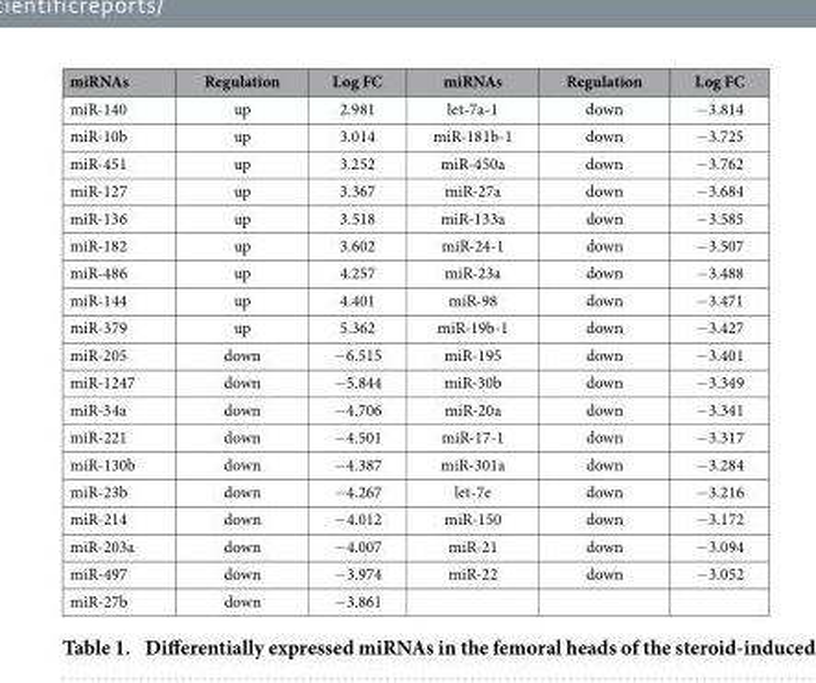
<table><thead><tr><td>miRNAs</td><td>Regulation</td><td>Log FC</td><td>miRNAs</td><td>Regulation</td><td>Log FC</td></tr></thead><tbody><tr><td>miR-140</td><td>up</td><td>2.981</td><td>let-7a-1</td><td>down</td><td>− 3.814</td></tr><tr><td>miR-10b</td><td>up</td><td>3.014</td><td>miR-181b-1</td><td>down</td><td>− 3.725</td></tr><tr><td>miR-451</td><td>up</td><td>3.252</td><td>miR-450a</td><td>down</td><td>− 3.762</td></tr><tr><td>miR-127</td><td>up</td><td>3.367</td><td>miR-27a</td><td>down</td><td>− 3.684</td></tr><tr><td>miR-136</td><td>up</td><td>3.518</td><td>miR-133a</td><td>down</td><td>− 3.585</td></tr><tr><td>miR-182</td><td>up</td><td>3.602</td><td>miR-24-1</td><td>down</td><td>− 3.507</td></tr><tr><td>miR-486</td><td>up</td><td>4.257</td><td>miR-23a</td><td>down</td><td>− 3.488</td></tr><tr><td>miR-144</td><td>up</td><td>4.401</td><td>miR-98</td><td>down</td><td>− 3.471</td></tr><tr><td>miR-379</td><td>up</td><td>5.362</td><td>miR-19b-1</td><td>down</td><td>− 3.427</td></tr><tr><td>miR-205</td><td>down</td><td>− 6.515</td><td>miR-195</td><td>down</td><td>− 3.401</td></tr><tr><td>miR-1247</td><td>down</td><td>− 5.844</td><td>miR-30b</td><td>down</td><td>− 3.349</td></tr><tr><td>miR-34a</td><td>down</td><td>− 4.706</td><td>miR-20a</td><td>down</td><td>− 3.341</td></tr><tr><td>miR-221</td><td>down</td><td>− 4.501</td><td>miR-17-1</td><td>down</td><td>− 3.317</td></tr><tr><td>miR-130b</td><td>down</td><td>− 4.387</td><td>miR-301a</td><td>down</td><td>− 3.284</td></tr><tr><td>miR-23b</td><td>down</td><td>− 4.267</td><td>let-7e</td><td>down</td><td>− 3.216</td></tr><tr><td>miR-214</td><td>down</td><td>− 4.012</td><td>miR-150</td><td>down</td><td>− 3.172</td></tr><tr><td>miR-203a</td><td>down</td><td>− 4.007</td><td>miR-21</td><td>down</td><td>− 3.094</td></tr><tr><td>miR-497</td><td>down</td><td>− 3.974</td><td>miR-22</td><td>down</td><td>− 3.052</td></tr><tr><td>miR-27b</td><td>down</td><td>− 3.861</td><td></td><td></td><td></td></tr></tbody></table>